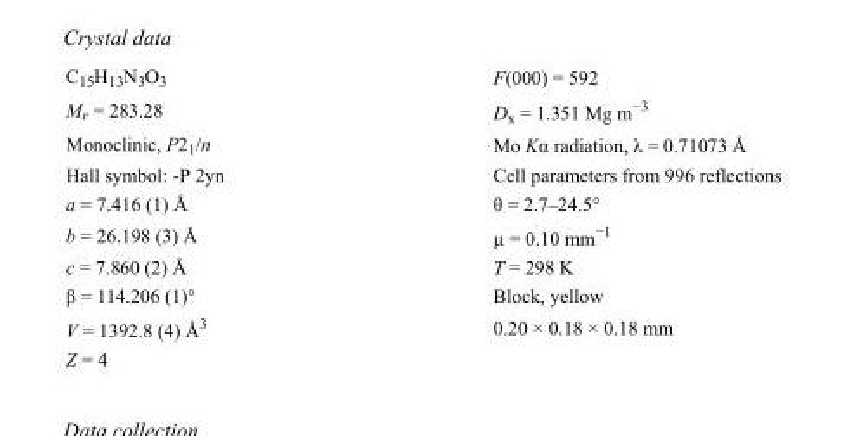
<table><tbody><tr><td>C<sub>15</sub>H<sub>13</sub>N<sub>3</sub>O<sub>3</sub></td><td>F(000) = 592</td></tr><tr><td>M<sub>r</sub> = 283.28</td><td>D<sub>x</sub> = 1.351 Mg m<sup>−3</sup></td></tr><tr><td>Monoclinic, P2<sub>1</sub>/n</td><td>Mo Kα radiation, λ = 0.71073 Å</td></tr><tr><td>Hall symbol: -P 2yn</td><td>Cell parameters from 996 reflections</td></tr><tr><td>a = 7.416 (1) Å</td><td>θ = 2.7–24.5°</td></tr><tr><td>b = 26.198 (3) Å</td><td>µ = 0.10 mm<sup>−1</sup></td></tr><tr><td>c = 7.860 (2) Å</td><td>T = 298 K</td></tr><tr><td>β = 114.206 (1)°</td><td>Block, yellow</td></tr><tr><td>V = 1392.8 (4) Å<sup>3</sup></td><td>0.20 × 0.18 × 0.18 mm</td></tr><tr><td>Z = 4</td><td></td></tr></tbody></table>